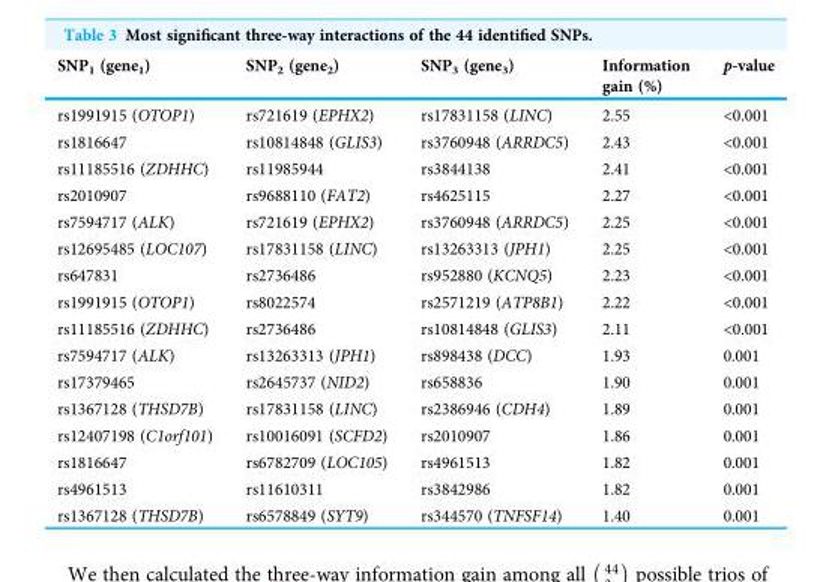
<table><thead><tr><td>SNP<sub>1</sub> (gene<sub>1</sub>)</td><td>SNP<sub>2</sub> (gene<sub>2</sub>)</td><td>SNP<sub>3</sub> (gene<sub>3</sub>)</td><td>Information gain (%)</td><td>p-value</td></tr></thead><tbody><tr><td>rs1991915 (OTOP1)</td><td>rs721619 (EPHX2)</td><td>rs17831158 (LINC)</td><td>2.55</td><td>&lt;0.001</td></tr><tr><td>rs1816647</td><td>rs10814848 (GLIS3)</td><td>rs3760948 (ARRDC5)</td><td>2.43</td><td>&lt;0.001</td></tr><tr><td>rs11185516 (ZDHHC)</td><td>rs11985944</td><td>rs3844138</td><td>2.41</td><td>&lt;0.001</td></tr><tr><td>rs2010907</td><td>rs9688110 (FAT2)</td><td>rs4625115</td><td>2.27</td><td>&lt;0.001</td></tr><tr><td>rs7594717 (ALK)</td><td>rs721619 (EPHX2)</td><td>rs3760948 (ARRDC5)</td><td>2.25</td><td>&lt;0.001</td></tr><tr><td>rs12695485 (LOC107)</td><td>rs17831158 (LINC)</td><td>rs13263313 (JPH1)</td><td>2.25</td><td>&lt;0.001</td></tr><tr><td>rs647831</td><td>rs2736486</td><td>rs952880 (KCNQ5)</td><td>2.23</td><td>&lt;0.001</td></tr><tr><td>rs1991915 (OTOP1)</td><td>rs8022574</td><td>rs2571219 (ATP8B1)</td><td>2.22</td><td>&lt;0.001</td></tr><tr><td>rs11185516 (ZDHHC)</td><td>rs2736486</td><td>rs10814848 (GLIS3)</td><td>2.11</td><td>&lt;0.001</td></tr><tr><td>rs7594717 (ALK)</td><td>rs13263313 (JPH1)</td><td>rs898438 (DCC)</td><td>1.93</td><td>0.001</td></tr><tr><td>rs17379465</td><td>rs2645737 (NID2)</td><td>rs658836</td><td>1.90</td><td>0.001</td></tr><tr><td>rs1367128 (THSD7B)</td><td>rs17831158 (LINC)</td><td>rs2386946 (CDH4)</td><td>1.89</td><td>0.001</td></tr><tr><td>rs12407198 (C1orf101)</td><td>rs10016091 (SCFD2)</td><td>rs2010907</td><td>1.86</td><td>0.001</td></tr><tr><td>rs1816647</td><td>rs6782709 (LOC105)</td><td>rs4961513</td><td>1.82</td><td>0.001</td></tr><tr><td>rs4961513</td><td>rs11610311</td><td>rs3842986</td><td>1.82</td><td>0.001</td></tr><tr><td>rs1367128 (THSD7B)</td><td>rs6578849 (SYT9)</td><td>rs344570 (TNFSF14)</td><td>1.40</td><td>0.001</td></tr></tbody></table>